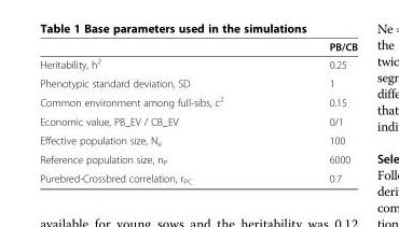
<table><thead><tr><td></td><td>PB/CB</td></tr></thead><tbody><tr><td>Heritability, h<sup>2</sup></td><td>0.25</td></tr><tr><td>Phenotypic standard deviation, SD</td><td>1</td></tr><tr><td>Common environment among full-sibs, c<sup>2</sup></td><td>0.15</td></tr><tr><td>Economic value, PB_EV / CB_EV</td><td>0/1</td></tr><tr><td>Effective population size, N<sub>e</sub></td><td>100</td></tr><tr><td>Reference population size, n<sub>P</sub></td><td>6000</td></tr><tr><td>Purebred-Crossbred correlation, r<sub>PC</sub></td><td>0.7</td></tr></tbody></table>